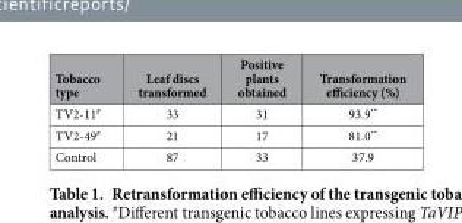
<table><thead><tr><td>Tobacco type</td><td>Leaf discs transformed</td><td>Positive plants obtained</td><td>Transformation efficiency (%)</td></tr></thead><tbody><tr><td>TV2-11<sup>#</sup></td><td>33</td><td>31</td><td>93.9**</td></tr><tr><td>TV2-49<sup>#</sup></td><td>21</td><td>17</td><td>81.0**</td></tr><tr><td>Control</td><td>87</td><td>33</td><td>37.9</td></tr></tbody></table>